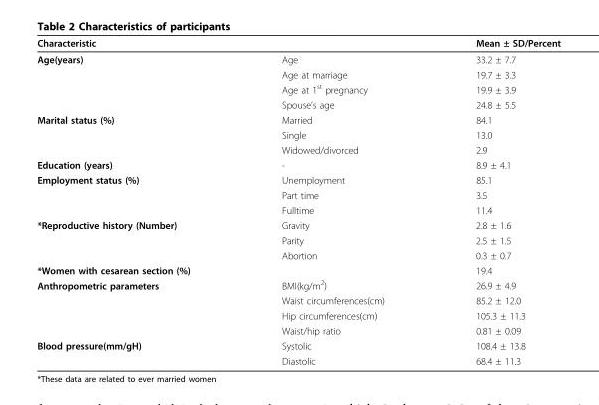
<table><thead><tr><td>Characteristic</td><td></td><td>Mean ± SD/Percent</td></tr></thead><tbody><tr><td rowspan="4">Age(years)</td><td>Age</td><td>33.2 ± 7.7</td></tr><tr><td>Age at marriage</td><td>19.7 ± 3.3</td></tr><tr><td>Age at 1<sup>st</sup> pregnancy</td><td>19.9 ± 3.9</td></tr><tr><td>Spouse’s age</td><td>24.8 ± 5.5</td></tr><tr><td rowspan="3">Marital status (%)</td><td>Married</td><td>84.1</td></tr><tr><td>Single</td><td>13.0</td></tr><tr><td>Widowed/divorced</td><td>2.9</td></tr><tr><td>Education (years)</td><td>-</td><td>8.9 ± 4.1</td></tr><tr><td rowspan="3">Employment status (%)</td><td>Unemployment</td><td>85.1</td></tr><tr><td>Part time</td><td>3.5</td></tr><tr><td>Fulltime</td><td>11.4</td></tr><tr><td rowspan="3">*Reproductive history (Number)</td><td>Gravity</td><td>2.8 ± 1.6</td></tr><tr><td>Parity</td><td>2.5 ± 1.5</td></tr><tr><td>Abortion</td><td>0.3 ± 0.7</td></tr><tr><td>*Women with cesarean section (%)</td><td></td><td>19.4</td></tr><tr><td rowspan="4">Anthropometric parameters</td><td>BMI(kg/m<sup>2</sup>)</td><td>26.9 ± 4.9</td></tr><tr><td>Waist circumferences(cm)</td><td>85.2 ± 12.0</td></tr><tr><td>Hip circumferences(cm)</td><td>105.3 ± 11.3</td></tr><tr><td>Waist/hip ratio</td><td>0.81 ± 0.09</td></tr><tr><td rowspan="2">Blood pressure(mm/gH)</td><td>Systolic</td><td>108.4 ± 13.8</td></tr><tr><td>Diastolic</td><td>68.4 ± 11.3</td></tr></tbody></table>